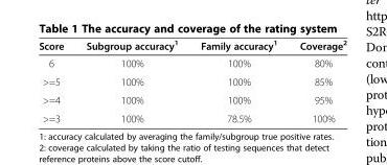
<table><thead><tr><td>Score</td><td>Subgroup accuracy<sup>1</sup></td><td>Family accuracy<sup>1</sup></td><td>Coverage<sup>2</sup></td></tr></thead><tbody><tr><td>6</td><td>100%</td><td>100%</td><td>80%</td></tr><tr><td>&gt;=5</td><td>100%</td><td>100%</td><td>85%</td></tr><tr><td>&gt;=4</td><td>100%</td><td>100%</td><td>95%</td></tr><tr><td>&gt;=3</td><td>100%</td><td>78.5%</td><td>100%</td></tr></tbody></table>